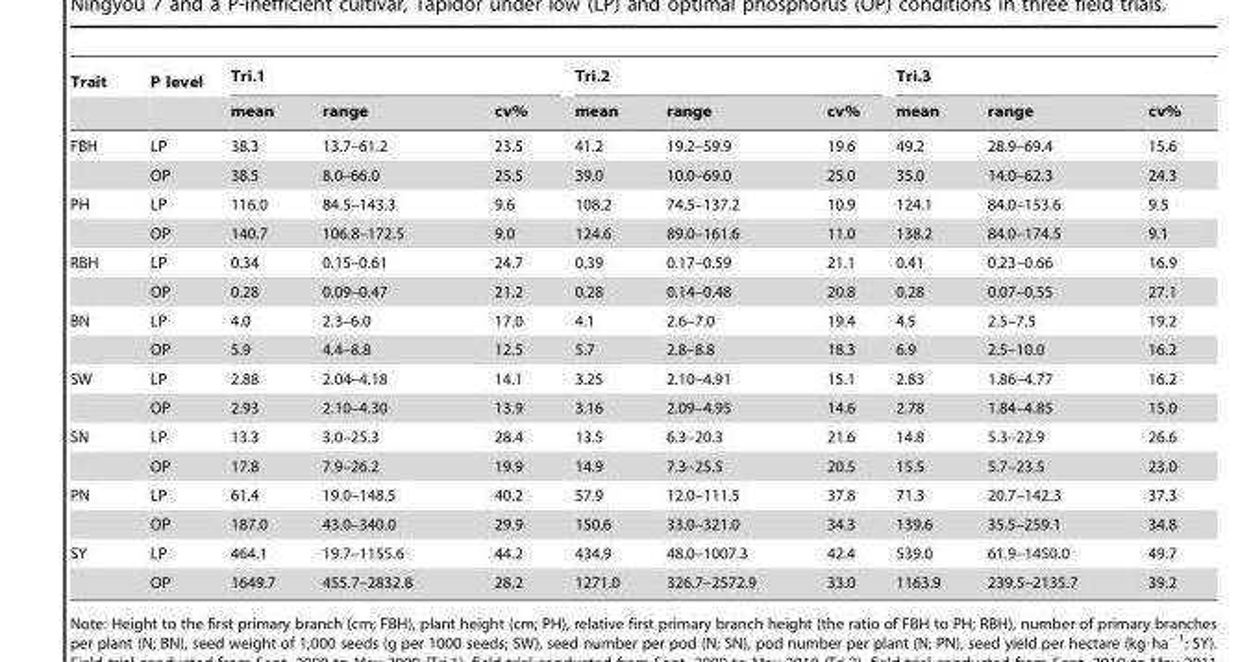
<table><thead><tr><td rowspan="2">Trait</td><td rowspan="2">P level</td><td colspan="3">Tri.1</td><td colspan="3">Tri.2</td><td colspan="3">Tri.3</td></tr><tr><td>mean</td><td>range</td><td>cv%</td><td>mean</td><td>range</td><td>cv%</td><td>mean</td><td>range</td><td>cv%</td></tr></thead><tbody><tr><td rowspan="2">FBH</td><td>LP</td><td>38.3</td><td>13.7–61.2</td><td>23.5</td><td>41.2</td><td>19.2–59.9</td><td>19.6</td><td>49.2</td><td>28.9–69.4</td><td>15.6</td></tr><tr><td>OP</td><td>38.5</td><td>8.0–66.0</td><td>25.5</td><td>39.0</td><td>10.0–69.0</td><td>25.0</td><td>35.0</td><td>14.0–62.3</td><td>24.3</td></tr><tr><td rowspan="2">PH</td><td>LP</td><td>116.0</td><td>84.5–143.3</td><td>9.6</td><td>108.2</td><td>74.5–137.2</td><td>10.9</td><td>124.1</td><td>84.0–153.6</td><td>9.5</td></tr><tr><td>OP</td><td>140.7</td><td>106.8–172.5</td><td>9.0</td><td>124.6</td><td>89.0–161.6</td><td>11.0</td><td>138.2</td><td>84.0–174.5</td><td>9.1</td></tr><tr><td rowspan="2">RBH</td><td>LP</td><td>0.34</td><td>0.15–0.61</td><td>24.7</td><td>0.39</td><td>0.17–0.59</td><td>21.1</td><td>0.41</td><td>0.23–0.66</td><td>16.9</td></tr><tr><td>OP</td><td>0.28</td><td>0.09–0.47</td><td>21.2</td><td>0.28</td><td>0.14–0.48</td><td>20.8</td><td>0.28</td><td>0.07–0.55</td><td>27.1</td></tr><tr><td rowspan="2">BN</td><td>LP</td><td>4.0</td><td>2.3–6.0</td><td>17.0</td><td>4.1</td><td>2.6–7.0</td><td>19.4</td><td>4.5</td><td>2.5–7.5</td><td>19.2</td></tr><tr><td>OP</td><td>5.9</td><td>4.4–8.8</td><td>12.5</td><td>5.7</td><td>2.8–8.8</td><td>18.3</td><td>6.9</td><td>2.5–10.0</td><td>16.2</td></tr><tr><td rowspan="2">SW</td><td>LP</td><td>2.88</td><td>2.04–4.18</td><td>14.1</td><td>3.25</td><td>2.10–4.91</td><td>15.1</td><td>2.83</td><td>1.86–4.77</td><td>16.2</td></tr><tr><td>OP</td><td>2.93</td><td>2.10–4.30</td><td>13.9</td><td>3.16</td><td>2.09–4.95</td><td>14.6</td><td>2.78</td><td>1.84–4.85</td><td>15.0</td></tr><tr><td rowspan="2">SN</td><td>LP</td><td>13.3</td><td>3.0–25.3</td><td>28.4</td><td>13.5</td><td>6.3–20.3</td><td>21.6</td><td>14.8</td><td>5.3–22.9</td><td>26.6</td></tr><tr><td>OP</td><td>17.8</td><td>7.9–26.2</td><td>19.9</td><td>14.9</td><td>7.3–25.5</td><td>20.5</td><td>15.5</td><td>5.7–23.5</td><td>23.0</td></tr><tr><td rowspan="2">PN</td><td>LP</td><td>61.4</td><td>19.0–148.5</td><td>40.2</td><td>57.9</td><td>12.0–111.5</td><td>37.8</td><td>71.3</td><td>20.7–142.3</td><td>37.3</td></tr><tr><td>OP</td><td>187.0</td><td>43.0–340.0</td><td>29.9</td><td>150.6</td><td>33.0–321.0</td><td>34.3</td><td>139.6</td><td>35.5–259.1</td><td>34.8</td></tr><tr><td rowspan="2">SY</td><td>LP</td><td>464.1</td><td>19.7–1155.6</td><td>44.2</td><td>434.9</td><td>48.0–1007.3</td><td>42.4</td><td>539.0</td><td>61.9–1450.0</td><td>49.7</td></tr><tr><td>OP</td><td>1649.7</td><td>455.7–2832.8</td><td>28.2</td><td>1271.0</td><td>326.7–2572.9</td><td>33.0</td><td>1163.9</td><td>239.5–2135.7</td><td>39.2</td></tr></tbody></table>